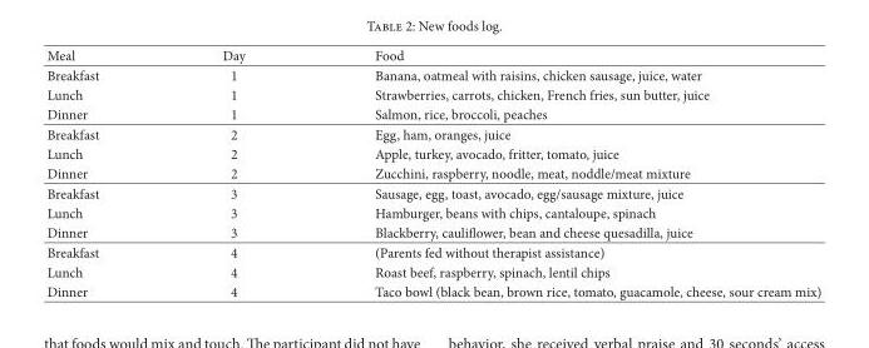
<table><thead><tr><td>Meal</td><td>Day</td><td>Food</td></tr></thead><tbody><tr><td>Breakfast</td><td>1</td><td>Banana, oatmeal with raisins, chicken sausage, juice, water</td></tr><tr><td>Lunch</td><td>1</td><td>Strawberries, carrots, chicken, French fries, sun butter, juice</td></tr><tr><td>Dinner</td><td>1</td><td>Salmon, rice, broccoli, peaches</td></tr><tr><td>Breakfast</td><td>2</td><td>Egg, ham, oranges, juice</td></tr><tr><td>Lunch</td><td>2</td><td>Apple, turkey, avocado, fritter, tomato, juice</td></tr><tr><td>Dinner</td><td>2</td><td>Zucchini, raspberry, noodle, meat, noddle/meat mixture</td></tr><tr><td>Breakfast</td><td>3</td><td>Sausage, egg, toast, avocado, egg/sausage mixture, juice</td></tr><tr><td>Lunch</td><td>3</td><td>Hamburger, beans with chips, cantaloupe, spinach</td></tr><tr><td>Dinner</td><td>3</td><td>Blackberry, cauliflower, bean and cheese quesadilla, juice</td></tr><tr><td>Breakfast</td><td>4</td><td>(Parents fed without therapist assistance)</td></tr><tr><td>Lunch</td><td>4</td><td>Roast beef, raspberry, spinach, lentil chips</td></tr><tr><td>Dinner</td><td>4</td><td>Taco bowl (black bean, brown rice, tomato, guacamole, cheese, sour cream mix)</td></tr></tbody></table>